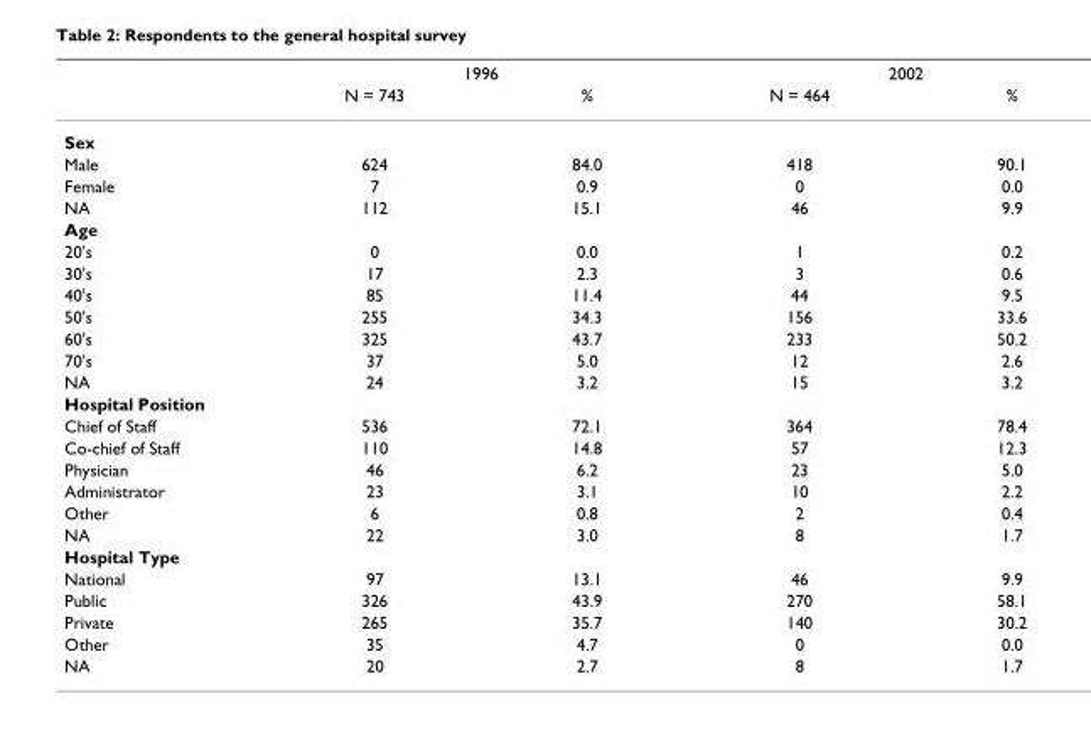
<table><thead><tr><td rowspan="2"></td><td colspan="2">1996</td><td colspan="2">2002</td></tr><tr><td>N = 743</td><td>%</td><td>N = 464</td><td>%</td></tr></thead><tbody><tr><td colspan="5">Sex</td></tr><tr><td>Male</td><td>624</td><td>84.0</td><td>418</td><td>90.1</td></tr><tr><td>Female</td><td>7</td><td>0.9</td><td>0</td><td>0.0</td></tr><tr><td>NA</td><td>112</td><td>15.1</td><td>46</td><td>9.9</td></tr><tr><td colspan="5">Age</td></tr><tr><td>20&#x27;s</td><td>0</td><td>0.0</td><td>1</td><td>0.2</td></tr><tr><td>30&#x27;s</td><td>17</td><td>2.3</td><td>3</td><td>0.6</td></tr><tr><td>40&#x27;s</td><td>85</td><td>11.4</td><td>44</td><td>9.5</td></tr><tr><td>50&#x27;s</td><td>255</td><td>34.3</td><td>156</td><td>33.6</td></tr><tr><td>60&#x27;s</td><td>325</td><td>43.7</td><td>233</td><td>50.2</td></tr><tr><td>70&#x27;s</td><td>37</td><td>5.0</td><td>12</td><td>2.6</td></tr><tr><td>NA</td><td>24</td><td>3.2</td><td>15</td><td>3.2</td></tr><tr><td colspan="5">Hospital Position</td></tr><tr><td>Chief of Staff</td><td>536</td><td>72.1</td><td>364</td><td>78.4</td></tr><tr><td>Co-chief of Staff</td><td>110</td><td>14.8</td><td>57</td><td>12.3</td></tr><tr><td>Physician</td><td>46</td><td>6.2</td><td>23</td><td>5.0</td></tr><tr><td>Administrator</td><td>23</td><td>3.1</td><td>10</td><td>2.2</td></tr><tr><td>Other</td><td>6</td><td>0.8</td><td>2</td><td>0.4</td></tr><tr><td>NA</td><td>22</td><td>3.0</td><td>8</td><td>1.7</td></tr><tr><td colspan="5">Hospital Type</td></tr><tr><td>National</td><td>97</td><td>13.1</td><td>46</td><td>9.9</td></tr><tr><td>Public</td><td>326</td><td>43.9</td><td>270</td><td>58.1</td></tr><tr><td>Private</td><td>265</td><td>35.7</td><td>140</td><td>30.2</td></tr><tr><td>Other</td><td>35</td><td>4.7</td><td>0</td><td>0.0</td></tr><tr><td>NA</td><td>20</td><td>2.7</td><td>8</td><td>1.7</td></tr></tbody></table>